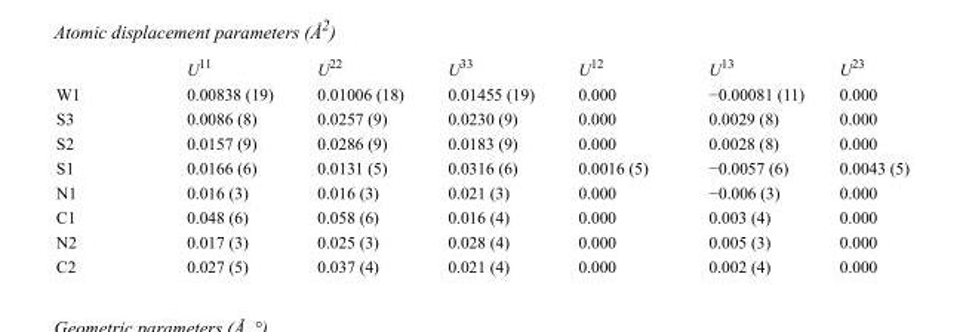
<table><thead><tr><td></td><td>U<sup>11</sup></td><td>U<sup>22</sup></td><td>U<sup>33</sup></td><td>U<sup>12</sup></td><td>U<sup>13</sup></td><td>U<sup>23</sup></td></tr></thead><tbody><tr><td>W1</td><td>0.00838 (19)</td><td>0.01006 (18)</td><td>0.01455 (19)</td><td>0.000</td><td>−0.00081 (11)</td><td>0.000</td></tr><tr><td>S3</td><td>0.0086 (8)</td><td>0.0257 (9)</td><td>0.0230 (9)</td><td>0.000</td><td>0.0029 (8)</td><td>0.000</td></tr><tr><td>S2</td><td>0.0157 (9)</td><td>0.0286 (9)</td><td>0.0183 (9)</td><td>0.000</td><td>0.0028 (8)</td><td>0.000</td></tr><tr><td>S1</td><td>0.0166 (6)</td><td>0.0131 (5)</td><td>0.0316 (6)</td><td>0.0016 (5)</td><td>−0.0057 (6)</td><td>0.0043 (5)</td></tr><tr><td>N1</td><td>0.016 (3)</td><td>0.016 (3)</td><td>0.021 (3)</td><td>0.000</td><td>−0.006 (3)</td><td>0.000</td></tr><tr><td>C1</td><td>0.048 (6)</td><td>0.058 (6)</td><td>0.016 (4)</td><td>0.000</td><td>0.003 (4)</td><td>0.000</td></tr><tr><td>N2</td><td>0.017 (3)</td><td>0.025 (3)</td><td>0.028 (4)</td><td>0.000</td><td>0.005 (3)</td><td>0.000</td></tr><tr><td>C2</td><td>0.027 (5)</td><td>0.037 (4)</td><td>0.021 (4)</td><td>0.000</td><td>0.002 (4)</td><td>0.000</td></tr></tbody></table>